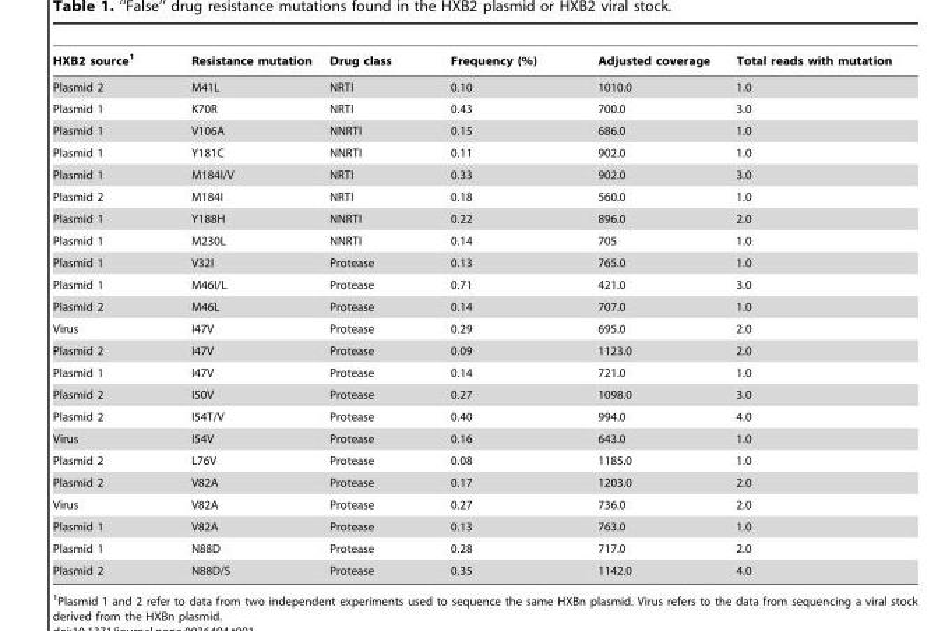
<table><thead><tr><td>HXB2 source<sup>1</sup></td><td>Resistance mutation</td><td>Drug class</td><td>Frequency (%)</td><td>Adjusted coverage</td><td>Total reads with mutation</td></tr></thead><tbody><tr><td>Plasmid 2</td><td>M41L</td><td>NRTI</td><td>0.10</td><td>1010.0</td><td>1.0</td></tr><tr><td>Plasmid 1</td><td>K70R</td><td>NRTI</td><td>0.43</td><td>700.0</td><td>3.0</td></tr><tr><td>Plasmid 1</td><td>V106A</td><td>NNRTI</td><td>0.15</td><td>686.0</td><td>1.0</td></tr><tr><td>Plasmid 1</td><td>Y181C</td><td>NNRTI</td><td>0.11</td><td>902.0</td><td>1.0</td></tr><tr><td>Plasmid 1</td><td>M184I/V</td><td>NRTI</td><td>0.33</td><td>902.0</td><td>3.0</td></tr><tr><td>Plasmid 2</td><td>M184I</td><td>NRTI</td><td>0.18</td><td>560.0</td><td>1.0</td></tr><tr><td>Plasmid 1</td><td>Y188H</td><td>NNRTI</td><td>0.22</td><td>896.0</td><td>2.0</td></tr><tr><td>Plasmid 1</td><td>M230L</td><td>NNRTI</td><td>0.14</td><td>705</td><td>1.0</td></tr><tr><td>Plasmid 1</td><td>V32I</td><td>Protease</td><td>0.13</td><td>765.0</td><td>1.0</td></tr><tr><td>Plasmid 1</td><td>M46I/L</td><td>Protease</td><td>0.71</td><td>421.0</td><td>3.0</td></tr><tr><td>Plasmid 2</td><td>M46L</td><td>Protease</td><td>0.14</td><td>707.0</td><td>1.0</td></tr><tr><td>Virus</td><td>I47V</td><td>Protease</td><td>0.29</td><td>695.0</td><td>2.0</td></tr><tr><td>Plasmid 2</td><td>I47V</td><td>Protease</td><td>0.09</td><td>1123.0</td><td>2.0</td></tr><tr><td>Plasmid 1</td><td>I47V</td><td>Protease</td><td>0.14</td><td>721.0</td><td>1.0</td></tr><tr><td>Plasmid 2</td><td>I50V</td><td>Protease</td><td>0.27</td><td>1098.0</td><td>3.0</td></tr><tr><td>Plasmid 2</td><td>I54T/V</td><td>Protease</td><td>0.40</td><td>994.0</td><td>4.0</td></tr><tr><td>Virus</td><td>I54V</td><td>Protease</td><td>0.16</td><td>643.0</td><td>1.0</td></tr><tr><td>Plasmid 2</td><td>L76V</td><td>Protease</td><td>0.08</td><td>1185.0</td><td>1.0</td></tr><tr><td>Plasmid 2</td><td>V82A</td><td>Protease</td><td>0.17</td><td>1203.0</td><td>2.0</td></tr><tr><td>Virus</td><td>V82A</td><td>Protease</td><td>0.27</td><td>736.0</td><td>2.0</td></tr><tr><td>Plasmid 1</td><td>V82A</td><td>Protease</td><td>0.13</td><td>763.0</td><td>1.0</td></tr><tr><td>Plasmid 1</td><td>N88D</td><td>Protease</td><td>0.28</td><td>717.0</td><td>2.0</td></tr><tr><td>Plasmid 2</td><td>N88D/S</td><td>Protease</td><td>0.35</td><td>1142.0</td><td>4.0</td></tr></tbody></table>